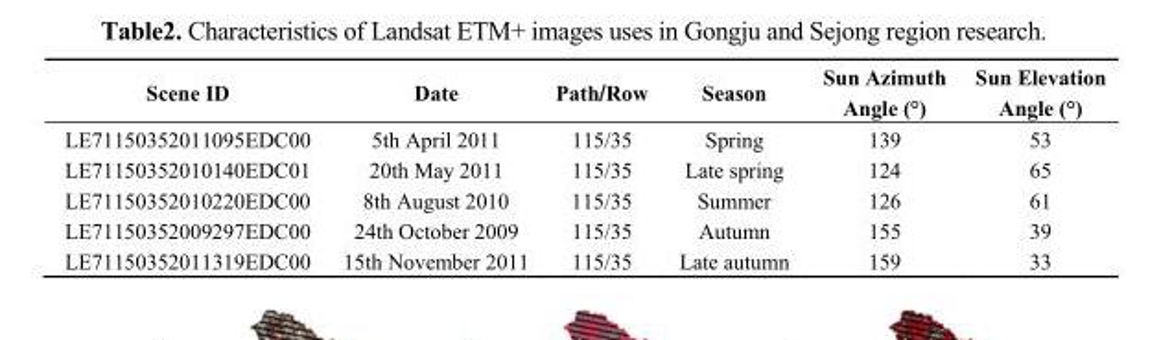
<table><thead><tr><td>Scene ID</td><td>Date</td><td>Path/Row</td><td>Season</td><td>Sun Azimuth Angle (°)</td><td>Sun Elevation Angle (°)</td></tr></thead><tbody><tr><td>LE71150352011095EDC00</td><td>5th April 2011</td><td>115/35</td><td>Spring</td><td>139</td><td>53</td></tr><tr><td>LE71150352010140EDC01</td><td>20th May 2011</td><td>115/35</td><td>Late spring</td><td>124</td><td>65</td></tr><tr><td>LE71150352010220EDC00</td><td>8th August 2010</td><td>115/35</td><td>Summer</td><td>126</td><td>61</td></tr><tr><td>LE71150352009297EDC00</td><td>24th October 2009</td><td>115/35</td><td>Autumn</td><td>155</td><td>39</td></tr><tr><td>LE71150352011319EDC00</td><td>15th November 2011</td><td>115/35</td><td>Late autumn</td><td>159</td><td>33</td></tr></tbody></table>